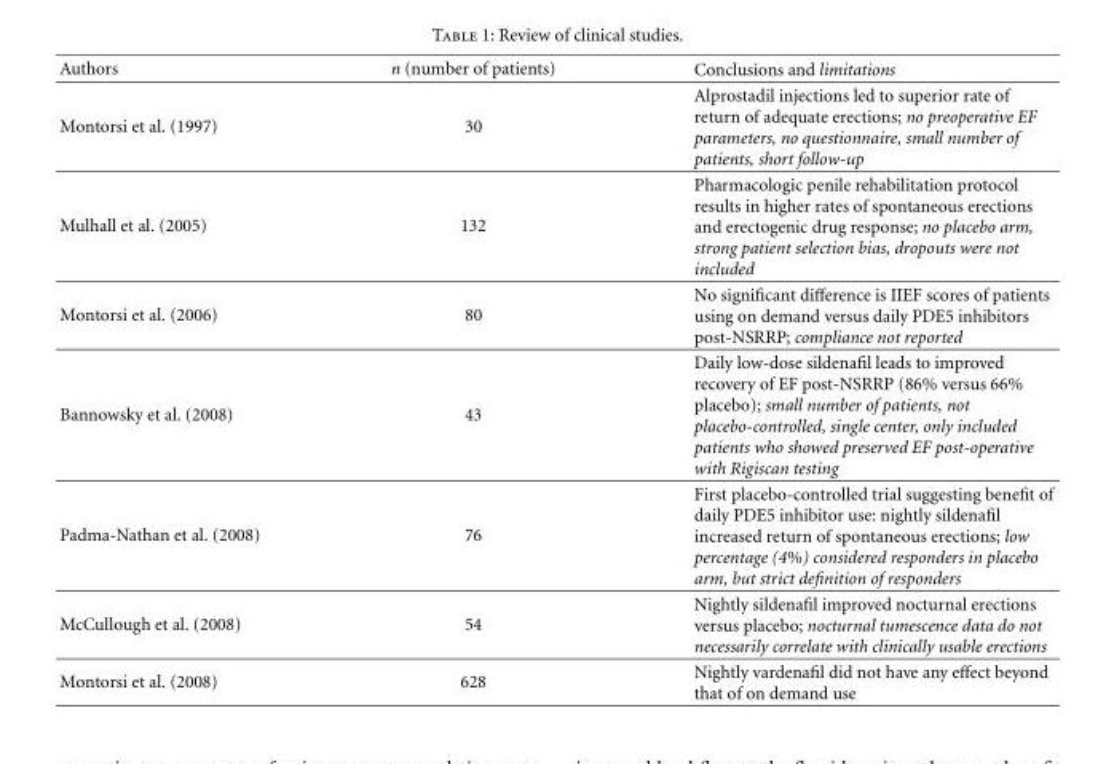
<table><thead><tr><td>Authors</td><td>n (number of patients)</td><td>Conclusions and limitations</td></tr></thead><tbody><tr><td>Montorsi et al. (1997)</td><td>30</td><td>Alprostadil injections led to superior rate of return of adequate erections; no preoperative EF parameters, no questionnaire, small number of patients, short follow-up</td></tr><tr><td>Mulhall et al. (2005)</td><td>132</td><td>Pharmacologic penile rehabilitation protocol results in higher rates of spontaneous erections and erectogenic drug response; no placebo arm, strong patient selection bias, dropouts were not included</td></tr><tr><td>Montorsi et al. (2006)</td><td>80</td><td>No significant difference is IIEF scores of patients using on demand versus daily PDE5 inhibitors post-NSRRP; compliance not reported</td></tr><tr><td>Bannowsky et al. (2008)</td><td>43</td><td>Daily low-dose sildenafil leads to improved recovery of EF post-NSRRP (86% versus 66% placebo); small number of patients, not placebo-controlled, single center, only included patients who showed preserved EF post-operative with Rigiscan testing</td></tr><tr><td>Padma-Nathan et al. (2008)</td><td>76</td><td>First placebo-controlled trial suggesting benefit of daily PDE5 inhibitor use: nightly sildenafil increased return of spontaneous erections; low percentage (4%) considered responders in placebo arm, but strict definition of responders</td></tr><tr><td>McCullough et al. (2008)</td><td>54</td><td>Nightly sildenafil improved nocturnal erections versus placebo; nocturnal tumescence data do not necessarily correlate with clinically usable erections</td></tr><tr><td>Montorsi et al. (2008)</td><td>628</td><td>Nightly vardenafil did not have any effect beyond that of on demand use</td></tr></tbody></table>